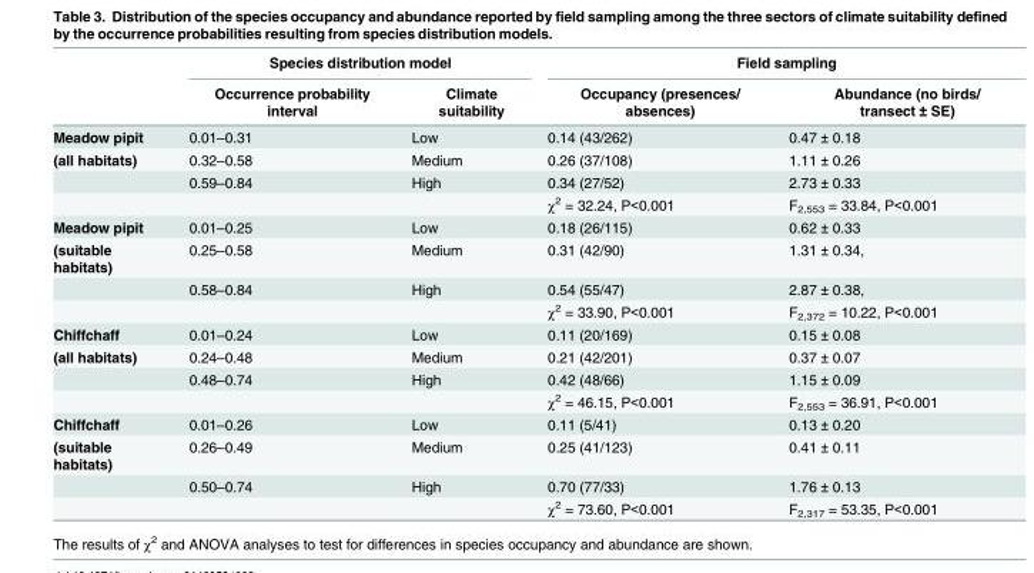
<table><thead><tr><td rowspan="2"></td><td colspan="2">Species distribution model</td><td colspan="2">Field sampling</td></tr><tr><td>Occurrence probability interval</td><td>Climate suitability</td><td>Occupancy (presences/ absences)</td><td>Abundance (no birds/ transect ± SE)</td></tr></thead><tbody><tr><td>Meadow pipit</td><td>0.01–0.31</td><td>Low</td><td>0.14 (43/262)</td><td>0.47 ± 0.18</td></tr><tr><td rowspan="3">(all habitats)</td><td>0.32–0.58</td><td>Medium</td><td>0.26 (37/108)</td><td>1.11 ± 0.26</td></tr><tr><td>0.59–0.84</td><td>High</td><td>0.34 (27/52)</td><td>2.73 ± 0.33</td></tr><tr><td></td><td></td><td>χ<sup>2</sup> = 32.24, P&lt;0.001</td><td>F<sub>2,553</sub> = 33.84, P&lt;0.001</td></tr><tr><td>Meadow pipit</td><td>0.01–0.25</td><td>Low</td><td>0.18 (26/115)</td><td>0.62 ± 0.33</td></tr><tr><td rowspan="3">(suitable habitats)</td><td>0.25–0.58</td><td>Medium</td><td>0.31 (42/90)</td><td>1.31 ± 0.34,</td></tr><tr><td>0.58–0.84</td><td>High</td><td>0.54 (55/47)</td><td>2.87 ± 0.38,</td></tr><tr><td></td><td></td><td>χ<sup>2</sup> = 33.90, P&lt;0.001</td><td>F<sub>2,372</sub> = 10.22, P&lt;0.001</td></tr><tr><td>Chiffchaff</td><td>0.01–0.24</td><td>Low</td><td>0.11 (20/169)</td><td>0.15 ± 0.08</td></tr><tr><td rowspan="3">(all habitats)</td><td>0.24–0.48</td><td>Medium</td><td>0.21 (42/201)</td><td>0.37 ± 0.07</td></tr><tr><td>0.48–0.74</td><td>High</td><td>0.42 (48/66)</td><td>1.15 ± 0.09</td></tr><tr><td></td><td></td><td>χ<sup>2</sup> = 46.15, P&lt;0.001</td><td>F<sub>2,553</sub> = 36.91, P&lt;0.001</td></tr><tr><td>Chiffchaff</td><td>0.01–0.26</td><td>Low</td><td>0.11 (5/41)</td><td>0.13 ± 0.20</td></tr><tr><td rowspan="3">(suitable habitats)</td><td>0.26–0.49</td><td>Medium</td><td>0.25 (41/123)</td><td>0.41 ± 0.11</td></tr><tr><td>0.50–0.74</td><td>High</td><td>0.70 (77/33)</td><td>1.76 ± 0.13</td></tr><tr><td></td><td></td><td>χ<sup>2</sup> = 73.60, P&lt;0.001</td><td>F<sub>2,317</sub> = 53.35, P&lt;0.001</td></tr></tbody></table>